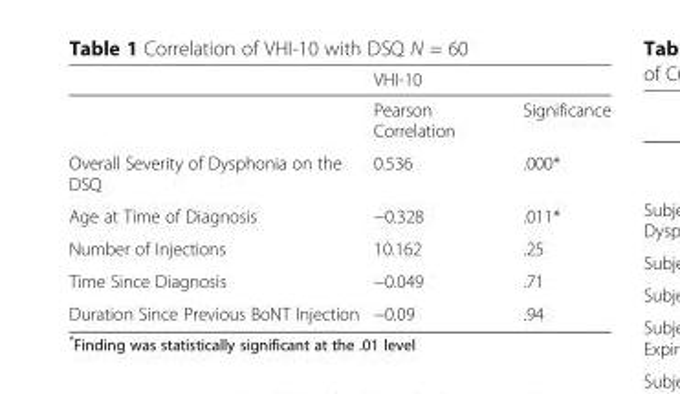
<table><thead><tr><td></td><td>VHI-10</td><td></td></tr></thead><tbody><tr><td></td><td>Pearson Correlation</td><td>Significance</td></tr><tr><td>Overall Severity of Dysphonia on the DSQ</td><td>0.536</td><td>.000*</td></tr><tr><td>Age at Time of Diagnosis</td><td>−0.328</td><td>.011*</td></tr><tr><td>Number of Injections</td><td>10.162</td><td>.25</td></tr><tr><td>Time Since Diagnosis</td><td>−0.049</td><td>.71</td></tr><tr><td>Duration Since Previous BoNT Injection</td><td>−0.09</td><td>.94</td></tr></tbody></table>